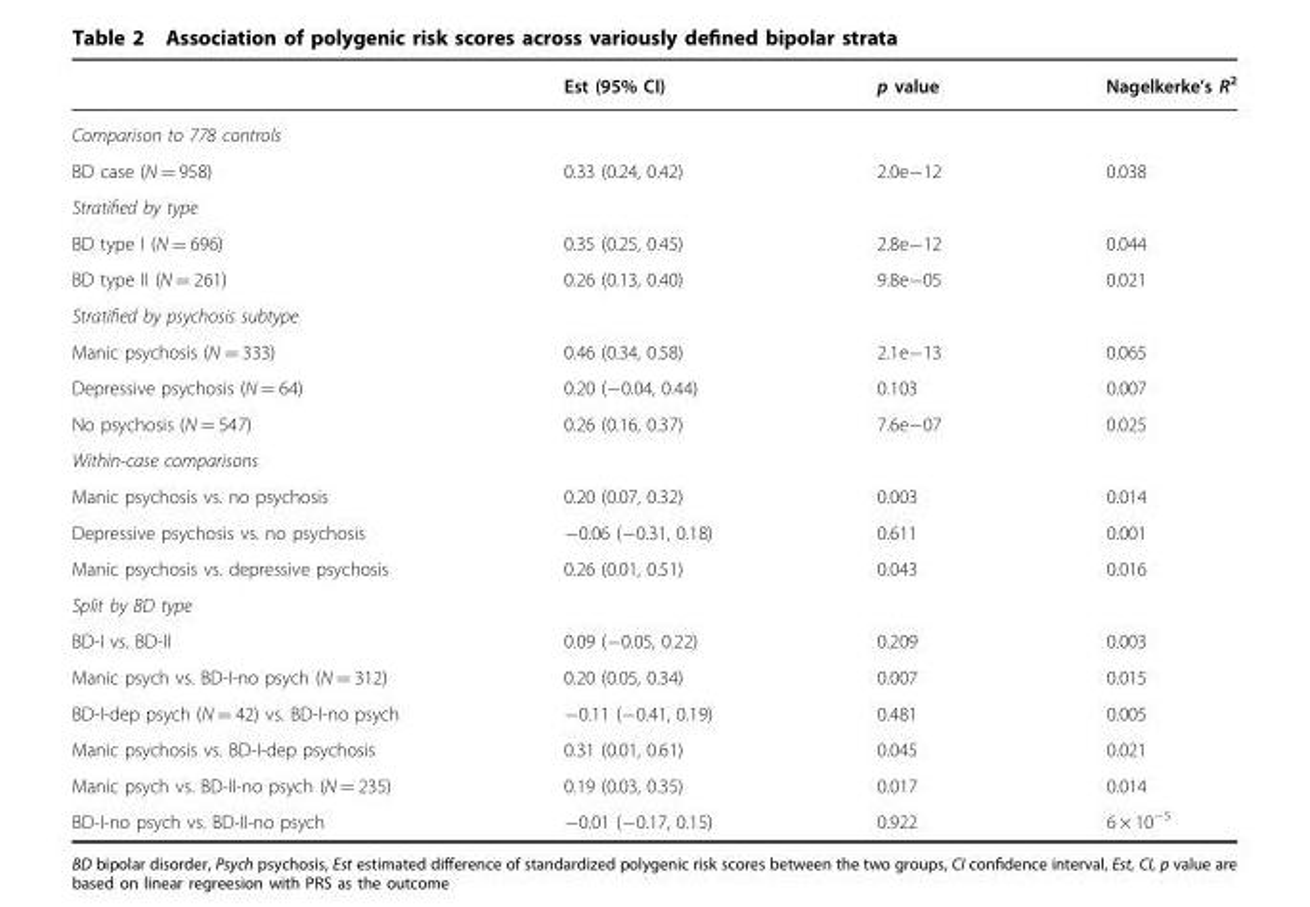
<table><thead><tr><td></td><td>Est (95% CI)</td><td>p value</td><td>Nagelkerke’s R<sup>2</sup></td></tr></thead><tbody><tr><td colspan="4">Comparison to 778 controls</td></tr><tr><td>BD case (N = 958)</td><td>0.33 (0.24, 0.42)</td><td>2.0e−12</td><td>0.038</td></tr><tr><td colspan="4">Stratified by type</td></tr><tr><td>BD type I (N = 696)</td><td>0.35 (0.25, 0.45)</td><td>2.8e−12</td><td>0.044</td></tr><tr><td>BD type II (N = 261)</td><td>0.26 (0.13, 0.40)</td><td>9.8e−05</td><td>0.021</td></tr><tr><td colspan="4">Stratified by psychosis subtype</td></tr><tr><td>Manic psychosis (N = 333)</td><td>0.46 (0.34, 0.58)</td><td>2.1e−13</td><td>0.065</td></tr><tr><td>Depressive psychosis (N = 64)</td><td>0.20 (−0.04, 0.44)</td><td>0.103</td><td>0.007</td></tr><tr><td>No psychosis (N = 547)</td><td>0.26 (0.16, 0.37)</td><td>7.6e−07</td><td>0.025</td></tr><tr><td colspan="4">Within-case comparisons</td></tr><tr><td>Manic psychosis vs. no psychosis</td><td>0.20 (0.07, 0.32)</td><td>0.003</td><td>0.014</td></tr><tr><td>Depressive psychosis vs. no psychosis</td><td>−0.06 (−0.31, 0.18)</td><td>0.611</td><td>0.001</td></tr><tr><td>Manic psychosis vs. depressive psychosis</td><td>0.26 (0.01, 0.51)</td><td>0.043</td><td>0.016</td></tr><tr><td colspan="4">Split by BD type</td></tr><tr><td>BD-I vs. BD-II</td><td>0.09 (−0.05, 0.22)</td><td>0.209</td><td>0.003</td></tr><tr><td>Manic psych vs. BD-I-no psych (N = 312)</td><td>0.20 (0.05, 0.34)</td><td>0.007</td><td>0.015</td></tr><tr><td>BD-I-dep psych (N = 42) vs. BD-I-no psych</td><td>−0.11 (−0.41, 0.19)</td><td>0.481</td><td>0.005</td></tr><tr><td>Manic psychosis vs. BD-I-dep psychosis</td><td>0.31 (0.01, 0.61)</td><td>0.045</td><td>0.021</td></tr><tr><td>Manic psych vs. BD-II-no psych (N = 235)</td><td>0.19 (0.03, 0.35)</td><td>0.017</td><td>0.014</td></tr><tr><td>BD-I-no psych vs. BD-II-no psych</td><td>−0.01 (−0.17, 0.15)</td><td>0.922</td><td>6 × 10<sup>−5</sup></td></tr></tbody></table>